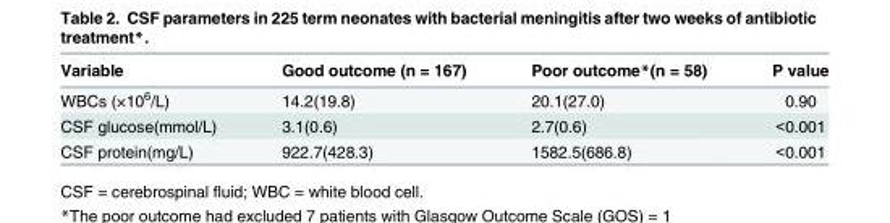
<table><thead><tr><td>Variable</td><td>Good outcome (n = 167)</td><td>Poor outcome*(n = 58)</td><td>P value</td></tr></thead><tbody><tr><td>WBCs (×10<sup>6</sup>/L)</td><td>14.2(19.8)</td><td>20.1(27.0)</td><td>0.90</td></tr><tr><td>CSF glucose(mmol/L)</td><td>3.1(0.6)</td><td>2.7(0.6)</td><td>&lt;0.001</td></tr><tr><td>CSF protein(mg/L)</td><td>922.7(428.3)</td><td>1582.5(686.8)</td><td>&lt;0.001</td></tr></tbody></table>